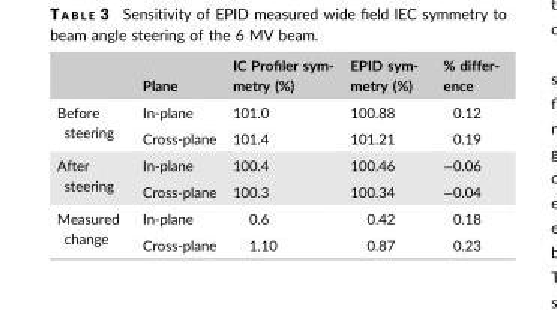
<table><thead><tr><td></td><td>Plane</td><td>IC Profiler sym- metry (%)</td><td>EPID sym- metry (%)</td><td>% differ- ence</td></tr></thead><tbody><tr><td rowspan="2">Before steering</td><td>In-plane</td><td>101.0</td><td>100.88</td><td>0.12</td></tr><tr><td>Cross-plane</td><td>101.4</td><td>101.21</td><td>0.19</td></tr><tr><td rowspan="2">After steering</td><td>In-plane</td><td>100.4</td><td>100.46</td><td>−0.06</td></tr><tr><td>Cross-plane</td><td>100.3</td><td>100.34</td><td>−0.04</td></tr><tr><td rowspan="2">Measured change</td><td>In-plane</td><td>0.6</td><td>0.42</td><td>0.18</td></tr><tr><td>Cross-plane</td><td>1.10</td><td>0.87</td><td>0.23</td></tr></tbody></table>